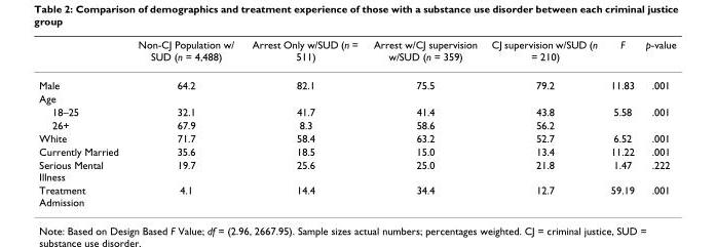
<table><thead><tr><td></td><td>Non-CJ Population w/ SUD (n = 4,488)</td><td>Arrest Only w/SUD (n = 511)</td><td>Arrest w/CJ supervision w/SUD (n = 359)</td><td>CJ supervision w/SUD (n = 210)</td><td>F</td><td>p-value</td></tr></thead><tbody><tr><td>Male</td><td>64.2</td><td>82.1</td><td>75.5</td><td>79.2</td><td>11.83</td><td>.001</td></tr><tr><td colspan="7">Age</td></tr><tr><td>18–25</td><td>32.1</td><td>41.7</td><td>41.4</td><td>43.8</td><td>5.58</td><td>.001</td></tr><tr><td>26+</td><td>67.9</td><td>8.3</td><td>58.6</td><td>56.2</td><td></td><td></td></tr><tr><td>White</td><td>71.7</td><td>58.4</td><td>63.2</td><td>52.7</td><td>6.52</td><td>.001</td></tr><tr><td>Currently Married</td><td>35.6</td><td>18.5</td><td>15.0</td><td>13.4</td><td>11.22</td><td>.001</td></tr><tr><td>Serious Mental Illness</td><td>19.7</td><td>25.6</td><td>25.0</td><td>21.8</td><td>1.47</td><td>.222</td></tr><tr><td>Treatment Admission</td><td>4.1</td><td>14.4</td><td>34.4</td><td>12.7</td><td>59.19</td><td>.001</td></tr></tbody></table>